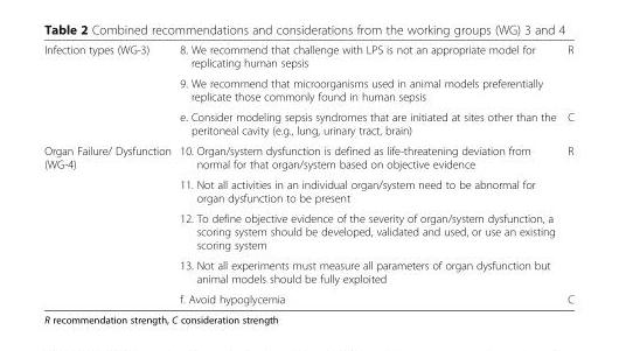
<table><tbody><tr><td rowspan="3">Infection types (WG-3)</td><td>8. We recommend that challenge with LPS is not an appropriate model for replicating human sepsis</td><td rowspan="2">R</td></tr><tr><td>9. We recommend that microorganisms used in animal models preferentially replicate those commonly found in human sepsis</td></tr><tr><td>e. Consider modeling sepsis syndromes that are initiated at sites other than the peritoneal cavity (e.g., lung, urinary tract, brain)</td><td>C</td></tr><tr><td rowspan="5">Organ Failure/ Dysfunction (WG-4)</td><td>10. Organ/system dysfunction is defined as life-threatening deviation from normal for that organ/system based on objective evidence</td><td rowspan="4">R</td></tr><tr><td>11. Not all activities in an individual organ/system need to be abnormal for organ dysfunction to be present</td></tr><tr><td>12. To define objective evidence of the severity of organ/system dysfunction, a scoring system should be developed, validated and used, or use an existing scoring system</td></tr><tr><td>13. Not all experiments must measure all parameters of organ dysfunction but animal models should be fully exploited</td></tr><tr><td>f. Avoid hypoglycemia</td><td>C</td></tr></tbody></table>